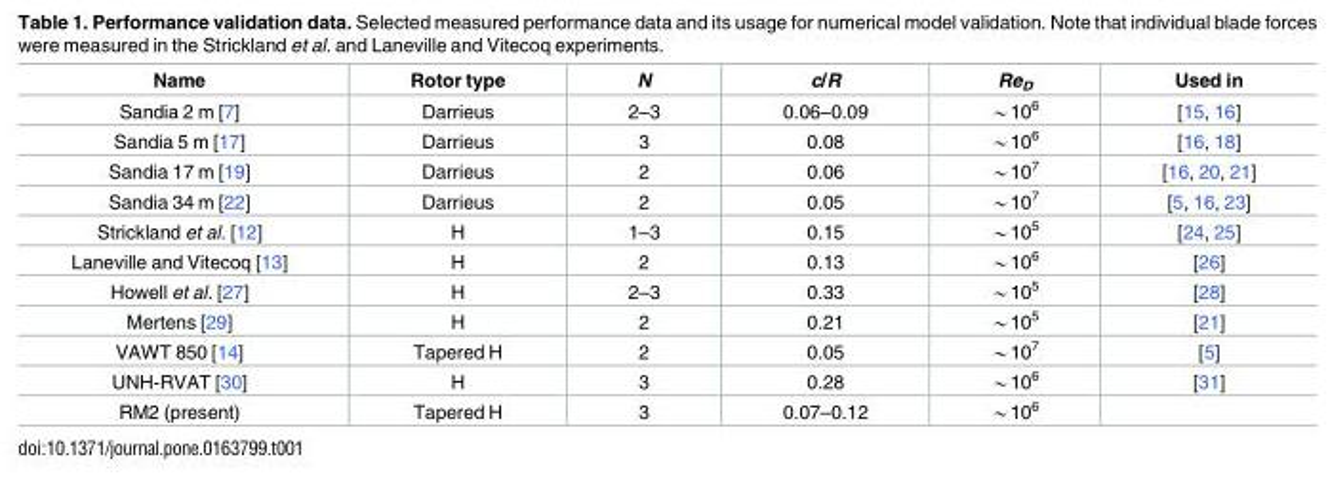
<table><thead><tr><td>Name</td><td>Rotor type</td><td>N</td><td>c/R</td><td>Re<sub>D</sub></td><td>Used in</td></tr></thead><tbody><tr><td>Sandia 2 m [7]</td><td>Darrieus</td><td>2–3</td><td>0.06–0.09</td><td>*106</td><td>[15, 16]</td></tr><tr><td>Sandia 5 m [17]</td><td>Darrieus</td><td>3</td><td>0.08</td><td>*106</td><td>[16, 18]</td></tr><tr><td>Sandia 17 m [19]</td><td>Darrieus</td><td>2</td><td>0.06</td><td>*107</td><td>[16, 20, 21]</td></tr><tr><td>Sandia 34 m [22]</td><td>Darrieus</td><td>2</td><td>0.05</td><td>*107</td><td>[5, 16, 23]</td></tr><tr><td>Strickland et al. [12]</td><td>H</td><td>1–3</td><td>0.15</td><td>*105</td><td>[24, 25]</td></tr><tr><td>Laneville and Vitecoq [13]</td><td>H</td><td>2</td><td>0.13</td><td>*106</td><td>[26]</td></tr><tr><td>Howell et al. [27]</td><td>H</td><td>2–3</td><td>0.33</td><td>*105</td><td>[28]</td></tr><tr><td>Mertens [29]</td><td>H</td><td>2</td><td>0.21</td><td>*105</td><td>[21]</td></tr><tr><td>VAWT 850 [14]</td><td>Tapered H</td><td>2</td><td>0.05</td><td>*107</td><td>[5]</td></tr><tr><td>UNH-RVAT [30]</td><td>H</td><td>3</td><td>0.28</td><td>*106</td><td>[31]</td></tr><tr><td>RM2 (present)</td><td>Tapered H</td><td>3</td><td>0.07–0.12</td><td>*106</td><td></td></tr></tbody></table>